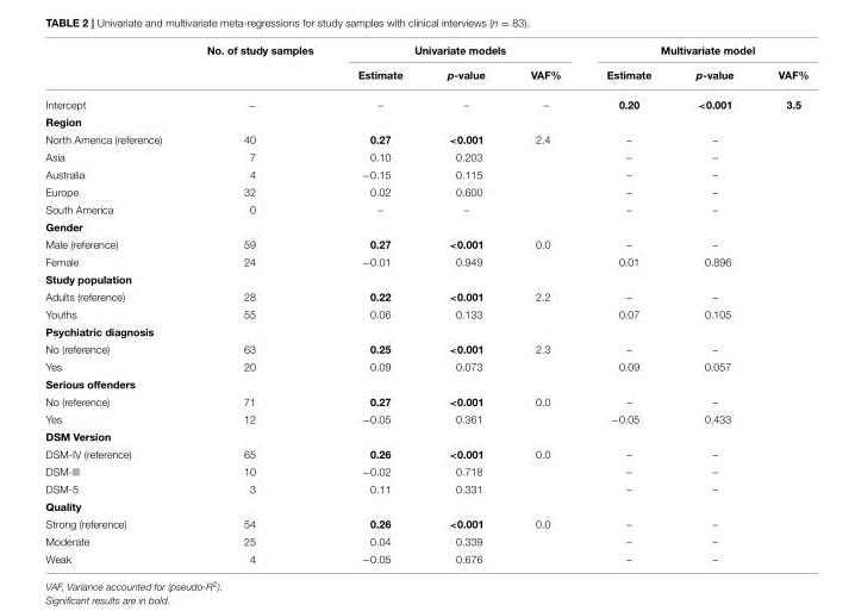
<table><thead><tr><td rowspan="2"></td><td rowspan="2">No. of study samples</td><td colspan="3">Univariate models</td><td colspan="3">Multivariate model</td></tr><tr><td>Estimate</td><td>p-value</td><td>VAF%</td><td>Estimate</td><td>p-value</td><td>VAF%</td></tr></thead><tbody><tr><td>Intercept</td><td>−</td><td>–</td><td>–</td><td>–</td><td>0.20</td><td>&lt;0.001</td><td>3.5</td></tr><tr><td colspan="8">Region</td></tr><tr><td>North America (reference)</td><td>40</td><td>0.27</td><td>&lt;0.001</td><td>2.4</td><td>–</td><td>–</td><td></td></tr><tr><td>Asia</td><td>7</td><td>0.10</td><td>0.203</td><td></td><td>–</td><td>–</td><td></td></tr><tr><td>Australia</td><td>4</td><td>−0.15</td><td>0.115</td><td></td><td>–</td><td>–</td><td></td></tr><tr><td>Europe</td><td>32</td><td>0.02</td><td>0.600</td><td></td><td>–</td><td>–</td><td></td></tr><tr><td>South America</td><td>0</td><td>–</td><td>–</td><td></td><td>–</td><td>–</td><td></td></tr><tr><td colspan="8">Gender</td></tr><tr><td>Male (reference)</td><td>59</td><td>0.27</td><td>&lt;0.001</td><td>0.0</td><td>–</td><td>–</td><td></td></tr><tr><td>Female</td><td>24</td><td>−0.01</td><td>0.949</td><td></td><td>0.01</td><td>0.896</td><td></td></tr><tr><td colspan="8">Study population</td></tr><tr><td>Adults (reference)</td><td>28</td><td>0.22</td><td>&lt;0.001</td><td>2.2</td><td>–</td><td>–</td><td></td></tr><tr><td>Youths</td><td>55</td><td>0.06</td><td>0.133</td><td></td><td>0.07</td><td>0.105</td><td></td></tr><tr><td colspan="8">Psychiatric diagnosis</td></tr><tr><td>No (reference)</td><td>63</td><td>0.25</td><td>&lt;0.001</td><td>2.3</td><td>–</td><td>–</td><td></td></tr><tr><td>Yes</td><td>20</td><td>0.09</td><td>0.073</td><td></td><td>0.09</td><td>0.057</td><td></td></tr><tr><td colspan="8">Serious offenders</td></tr><tr><td>No (reference)</td><td>71</td><td>0.27</td><td>&lt;0.001</td><td>0.0</td><td>–</td><td>–</td><td></td></tr><tr><td>Yes</td><td>12</td><td>−0.05</td><td>0.361</td><td></td><td>−0.05</td><td>0.433</td><td></td></tr><tr><td colspan="8">DSM Version</td></tr><tr><td>DSM-IV (reference)</td><td>65</td><td>0.26</td><td>&lt;0.001</td><td>0.0</td><td>–</td><td>–</td><td></td></tr><tr><td>DSM-III</td><td>10</td><td>−0.02</td><td>0.718</td><td></td><td>–</td><td>–</td><td></td></tr><tr><td>DSM-5</td><td>3</td><td>0.11</td><td>0.331</td><td></td><td>–</td><td>–</td><td></td></tr><tr><td colspan="8">Quality</td></tr><tr><td>Strong (reference)</td><td>54</td><td>0.26</td><td>&lt;0.001</td><td>0.0</td><td>–</td><td>–</td><td></td></tr><tr><td>Moderate</td><td>25</td><td>0.04</td><td>0.339</td><td></td><td>–</td><td>–</td><td></td></tr><tr><td>Weak</td><td>4</td><td>−0.05</td><td>0.676</td><td></td><td>–</td><td>–</td><td></td></tr></tbody></table>